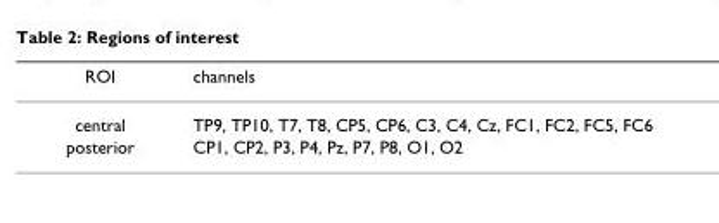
<table><thead><tr><td>ROI</td><td>channels</td></tr></thead><tbody><tr><td>central</td><td>TP9, TP10, T7, T8, CP5, CP6, C3, C4, Cz, FC1, FC2, FC5, FC6</td></tr><tr><td>posterior</td><td>CP1, CP2, P3, P4, Pz, P7, P8, O1, O2</td></tr></tbody></table>